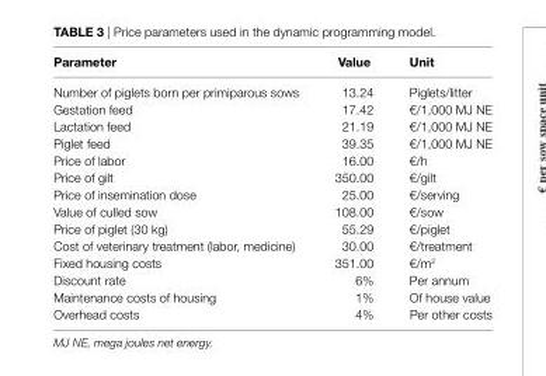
<table><thead><tr><td>Parameter</td><td>Value</td><td>Unit</td></tr></thead><tbody><tr><td>Number of piglets born per primiparous sows</td><td>13.24</td><td>Piglets/litter</td></tr><tr><td>Gestation feed</td><td>17.42</td><td>€/1,000 MJ NE</td></tr><tr><td>Lactation feed</td><td>21.19</td><td>€/1,000 MJ NE</td></tr><tr><td>Piglet feed</td><td>39.35</td><td>€/1,000 MJ NE</td></tr><tr><td>Price of labor</td><td>16.00</td><td>€/h</td></tr><tr><td>Price of gilt</td><td>350.00</td><td>€/gilt</td></tr><tr><td>Price of insemination dose</td><td>25.00</td><td>€/serving</td></tr><tr><td>Value of culled sow</td><td>108.00</td><td>€/sow</td></tr><tr><td>Price of piglet (30 kg)</td><td>55.29</td><td>€/piglet</td></tr><tr><td>Cost of veterinary treatment (labor, medicine)</td><td>30.00</td><td>€/treatment</td></tr><tr><td>Fixed housing costs</td><td>351.00</td><td>€/m<sup>2</sup></td></tr><tr><td>Discount rate</td><td>6%</td><td>Per annum</td></tr><tr><td>Maintenance costs of housing</td><td>1%</td><td>Of house value</td></tr><tr><td>Overhead costs</td><td>4%</td><td>Per other costs</td></tr></tbody></table>